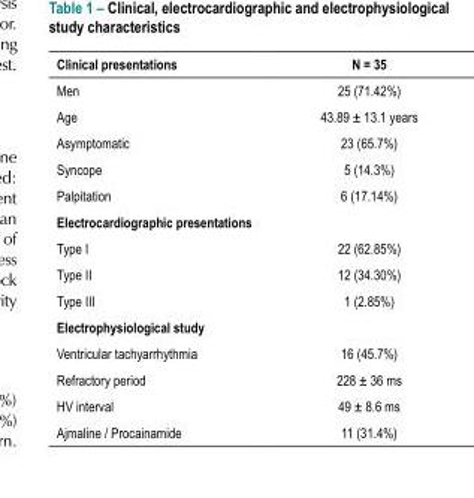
<table><thead><tr><td>Clinical presentations</td><td>N = 35</td></tr></thead><tbody><tr><td>Men</td><td>25 (71.42%)</td></tr><tr><td>Age</td><td>43.89 ± 13.1 years</td></tr><tr><td>Asymptomatic</td><td>23 (65.7%)</td></tr><tr><td>Syncope</td><td>5 (14.3%)</td></tr><tr><td>Palpitation</td><td>6 (17.14%)</td></tr><tr><td colspan="2">Electrocardiographic presentations</td></tr><tr><td>Type I</td><td>22 (62.85%)</td></tr><tr><td>Type II</td><td>12 (34.30%)</td></tr><tr><td>Type III</td><td>1 (2.85%)</td></tr><tr><td colspan="2">Electrophysiological study</td></tr><tr><td>Ventricular tachyarrhythmia</td><td>16 (45.7%)</td></tr><tr><td>Refractory period</td><td>228 ± 36 ms</td></tr><tr><td>HV interval</td><td>49 ± 8.6 ms</td></tr><tr><td>Ajmaline / Procainamide</td><td>11 (31.4%)</td></tr></tbody></table>